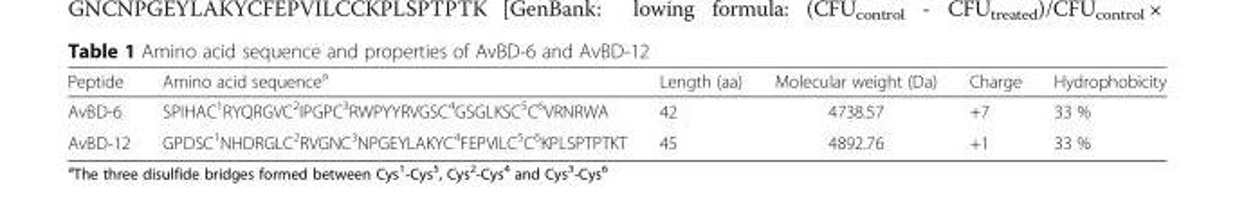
<table><thead><tr><td>Peptide</td><td>Amino acid sequence<sup>a</sup></td><td>Length (aa)</td><td>Molecular weight (Da)</td><td>Charge</td><td>Hydrophobicity</td></tr></thead><tbody><tr><td>AvBD-6</td><td>SPIHAC<sup>1</sup>RYQRGVC<sup>2</sup>IPGPC<sup>3</sup>RWPYYRVGSC<sup>4</sup>GSGLKSC<sup>5</sup>C<sup>6</sup>VRNRWA</td><td>42</td><td>4738.57</td><td>+7</td><td>33 %</td></tr><tr><td>AvBD-12</td><td>GPDSC<sup>1</sup>NHDRGLC<sup>2</sup>RVGNC<sup>3</sup>NPGEYLAKYC<sup>4</sup>FEPVILC<sup>5</sup>C<sup>6</sup>KPLSPTPTKT</td><td>45</td><td>4892.76</td><td>+1</td><td>33 %</td></tr></tbody></table>